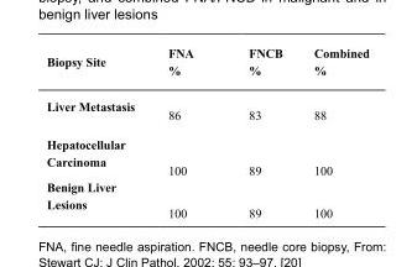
<table><thead><tr><td>Biopsy Site</td><td>FNA %</td><td>FNCB %</td><td>Combined %</td></tr></thead><tbody><tr><td>Liver Metastasis</td><td>86</td><td>83</td><td>88</td></tr><tr><td>Hepatocellular Carcinoma</td><td>100</td><td>89</td><td>100</td></tr><tr><td>Benign Liver Lesions</td><td>100</td><td>89</td><td>100</td></tr></tbody></table>